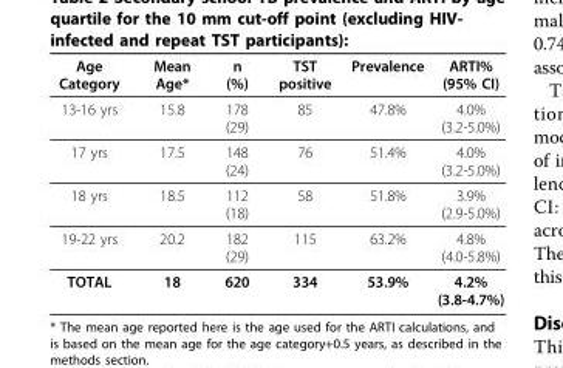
<table><thead><tr><td>Age Category</td><td>Mean Age*</td><td>n (%)</td><td>TST positive</td><td>Prevalence</td><td>ARTI% (95% CI)</td></tr></thead><tbody><tr><td>13-16 yrs</td><td>15.8</td><td>178 (29)</td><td>85</td><td>47.8%</td><td>4.0% (3.2-5.0%)</td></tr><tr><td>17 yrs</td><td>17.5</td><td>148 (24)</td><td>76</td><td>51.4%</td><td>4.0% (3.2-5.0%)</td></tr><tr><td>18 yrs</td><td>18.5</td><td>112 (18)</td><td>58</td><td>51.8%</td><td>3.9% (2.9-5.0%)</td></tr><tr><td>19-22 yrs</td><td>20.2</td><td>182 (29)</td><td>115</td><td>63.2%</td><td>4.8% (4.0-5.8%)</td></tr><tr><td>TOTAL</td><td>18</td><td>620</td><td>334</td><td>53.9%</td><td>4.2% (3.8-4.7%)</td></tr></tbody></table>